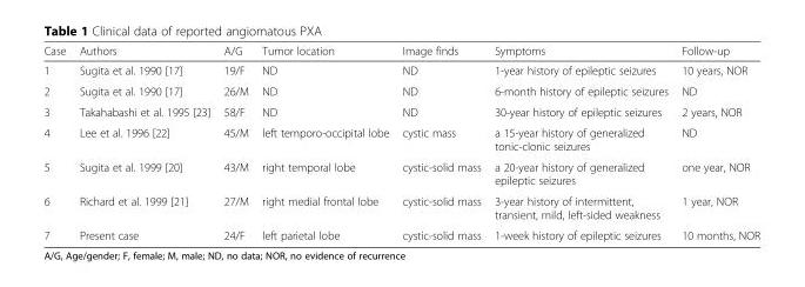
<table><thead><tr><td>Case</td><td>Authors</td><td>A/G</td><td>Tumor location</td><td>Image finds</td><td>Symptoms</td><td>Follow-up</td></tr></thead><tbody><tr><td>1</td><td>Sugita et al. 1990 [17]</td><td>19/F</td><td>ND</td><td>ND</td><td>1-year history of epileptic seizures</td><td>10 years, NOR</td></tr><tr><td>2</td><td>Sugita et al. 1990 [17]</td><td>26/M</td><td>ND</td><td>ND</td><td>6-month history of epileptic seizures</td><td>ND</td></tr><tr><td>3</td><td>Takahabashi et al. 1995 [23]</td><td>58/F</td><td>ND</td><td>ND</td><td>30-year history of epileptic seizures</td><td>2 years, NOR</td></tr><tr><td>4</td><td>Lee et al. 1996 [22]</td><td>45/M</td><td>left temporo-occipital lobe</td><td>cystic mass</td><td>a 15-year history of generalized tonic-clonic seizures</td><td>ND</td></tr><tr><td>5</td><td>Sugita et al. 1999 [20]</td><td>43/M</td><td>right temporal lobe</td><td>cystic-solid mass</td><td>a 20-year history of generalized epileptic seizures</td><td>one year, NOR</td></tr><tr><td>6</td><td>Richard et al. 1999 [21]</td><td>27/M</td><td>right medial frontal lobe</td><td>cystic-solid mass</td><td>3-year history of intermittent, transient, mild, left-sided weakness</td><td>1 year, NOR</td></tr><tr><td>7</td><td>Present case</td><td>24/F</td><td>left parietal lobe</td><td>cystic-solid mass</td><td>1-week history of epileptic seizures</td><td>10 months, NOR</td></tr></tbody></table>